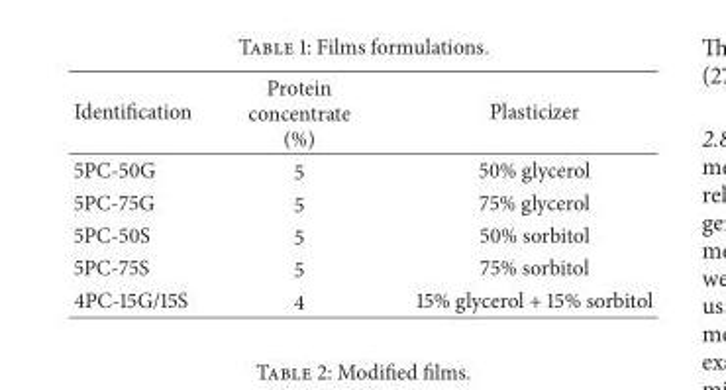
<table><thead><tr><td>Identification</td><td>Protein concentrate (%)</td><td>Plasticizer</td></tr></thead><tbody><tr><td>5PC-50G</td><td>5</td><td>50% glycerol</td></tr><tr><td>5PC-75G</td><td>5</td><td>75% glycerol</td></tr><tr><td>5PC-50S</td><td>5</td><td>50% sorbitol</td></tr><tr><td>5PC-75S</td><td>5</td><td>75% sorbitol</td></tr><tr><td>4PC-15G/15S</td><td>4</td><td>15% glycerol + 15% sorbitol</td></tr></tbody></table>